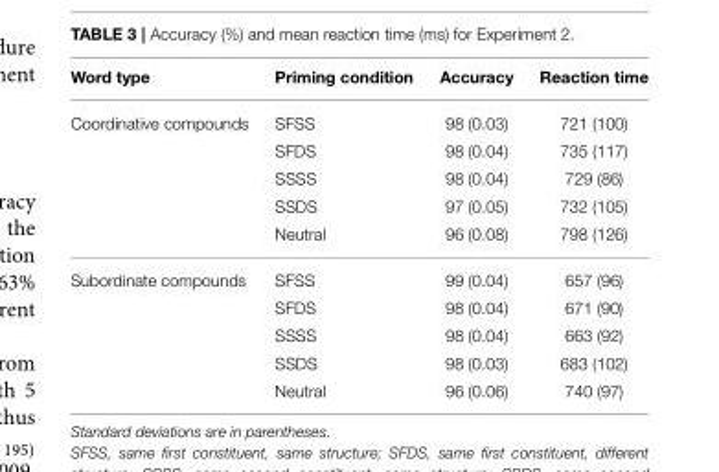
<table><thead><tr><td>Word type</td><td>Priming condition</td><td>Accuracy</td><td>Reaction time</td></tr></thead><tbody><tr><td rowspan="5">Coordinative compounds</td><td>SFSS</td><td>98 (0.03)</td><td>721 (100)</td></tr><tr><td>SFDS</td><td>98 (0.04)</td><td>735 (117)</td></tr><tr><td>SSSS</td><td>98 (0.04)</td><td>729 (86)</td></tr><tr><td>SSDS</td><td>97 (0.05)</td><td>732 (105)</td></tr><tr><td>Neutral</td><td>96 (0.08)</td><td>798 (126)</td></tr><tr><td rowspan="5">Subordinate compounds</td><td>SFSS</td><td>99 (0.04)</td><td>657 (96)</td></tr><tr><td>SFDS</td><td>98 (0.04)</td><td>671 (90)</td></tr><tr><td>SSSS</td><td>98 (0.04)</td><td>663 (92)</td></tr><tr><td>SSDS</td><td>98 (0.03)</td><td>683 (102)</td></tr><tr><td>Neutral</td><td>96 (0.06)</td><td>740 (97)</td></tr></tbody></table>